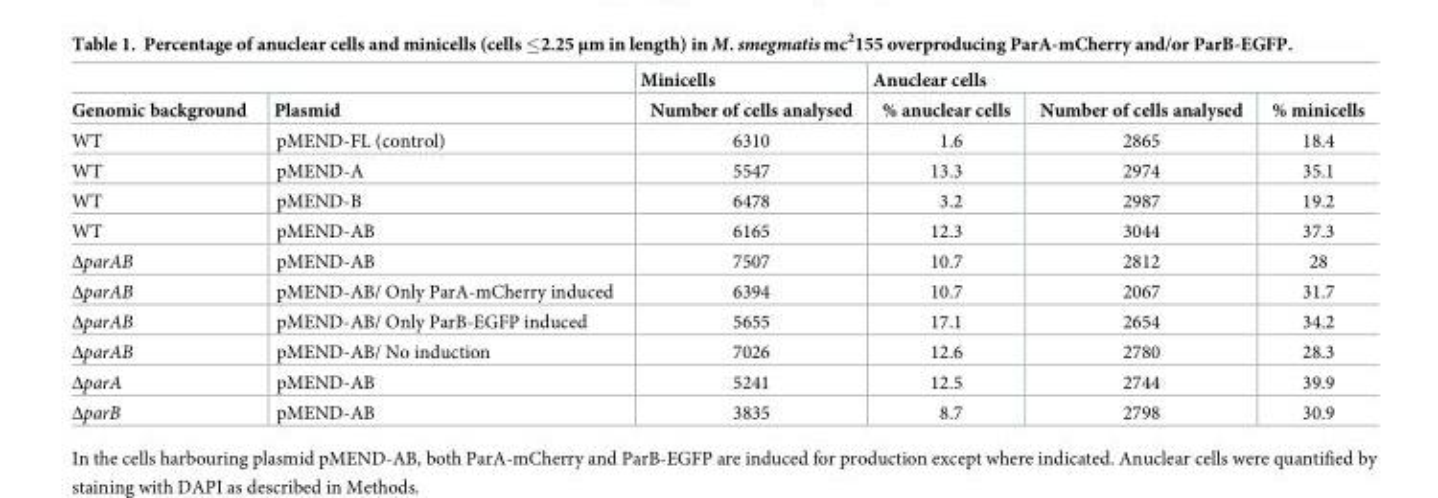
<table><thead><tr><td rowspan="2">Genomic background</td><td rowspan="2">Plasmid</td><td rowspan="2">Minicells Number of cells analysed</td><td colspan="3">Anuclear cells</td></tr><tr><td>% anuclear cells</td><td>Number of cells analysed</td><td>% minicells</td></tr></thead><tbody><tr><td>WT</td><td>pMEND-FL (control)</td><td>6310</td><td>1.6</td><td>2865</td><td>18.4</td></tr><tr><td>WT</td><td>pMEND-A</td><td>5547</td><td>13.3</td><td>2974</td><td>35.1</td></tr><tr><td>WT</td><td>pMEND-B</td><td>6478</td><td>3.2</td><td>2987</td><td>19.2</td></tr><tr><td>WT</td><td>pMEND-AB</td><td>6165</td><td>12.3</td><td>3044</td><td>37.3</td></tr><tr><td>ΔparAB</td><td>pMEND-AB</td><td>7507</td><td>10.7</td><td>2812</td><td>28</td></tr><tr><td>ΔparAB</td><td>pMEND-AB/ Only ParA-mCherry induced</td><td>6394</td><td>10.7</td><td>2067</td><td>31.7</td></tr><tr><td>ΔparAB</td><td>pMEND-AB/ Only ParB-EGFP induced</td><td>5655</td><td>17.1</td><td>2654</td><td>34.2</td></tr><tr><td>ΔparAB</td><td>pMEND-AB/ No induction</td><td>7026</td><td>12.6</td><td>2780</td><td>28.3</td></tr><tr><td>ΔparA</td><td>pMEND-AB</td><td>5241</td><td>12.5</td><td>2744</td><td>39.9</td></tr><tr><td>ΔparB</td><td>pMEND-AB</td><td>3835</td><td>8.7</td><td>2798</td><td>30.9</td></tr></tbody></table>